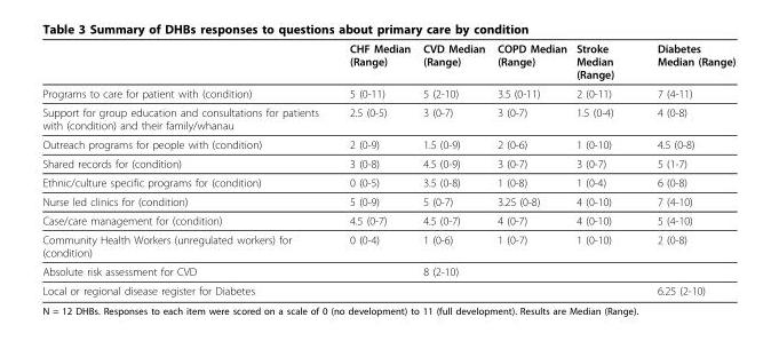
<table><thead><tr><td></td><td>CHF Median (Range)</td><td>CVD Median (Range)</td><td>COPD Median (Range)</td><td>Stroke Median (Range)</td><td>Diabetes Median (Range)</td></tr></thead><tbody><tr><td>Programs to care for patient with (condition)</td><td>5 (0-11)</td><td>5 (2-10)</td><td>3.5 (0-11)</td><td>2 (0-11)</td><td>7 (4-11)</td></tr><tr><td>Support for group education and consultations for patients with (condition) and their family/whanau</td><td>2.5 (0-5)</td><td>3 (0-7)</td><td>3 (0-7)</td><td>1.5 (0-4)</td><td>4 (0-8)</td></tr><tr><td>Outreach programs for people with (condition)</td><td>2 (0-9)</td><td>1.5 (0-9)</td><td>2 (0-6)</td><td>1 (0-10)</td><td>4.5 (0-8)</td></tr><tr><td>Shared records for (condition)</td><td>3 (0-8)</td><td>4.5 (0-9)</td><td>3 (0-7)</td><td>3 (0-7)</td><td>5 (1-7)</td></tr><tr><td>Ethnic/culture specific programs for (condition)</td><td>0 (0-5)</td><td>3.5 (0-8)</td><td>1 (0-8)</td><td>1 (0-4)</td><td>6 (0-8)</td></tr><tr><td>Nurse led clinics for (condition)</td><td>5 (0-9)</td><td>5 (0-7)</td><td>3.25 (0-8)</td><td>4 (0-10)</td><td>7 (4-10)</td></tr><tr><td>Case/care management for (condition)</td><td>4.5 (0-7)</td><td>4.5 (0-7)</td><td>4 (0-7)</td><td>4 (0-10)</td><td>5 (4-10)</td></tr><tr><td>Community Health Workers (unregulated workers) for (condition)</td><td>0 (0-4)</td><td>1 (0-6)</td><td>1 (0-7)</td><td>1 (0-10)</td><td>2 (0-8)</td></tr><tr><td>Absolute risk assessment for CVD</td><td></td><td>8 (2-10)</td><td></td><td></td><td></td></tr><tr><td>Local or regional disease register for Diabetes</td><td></td><td></td><td></td><td></td><td>6.25 (2-10)</td></tr></tbody></table>